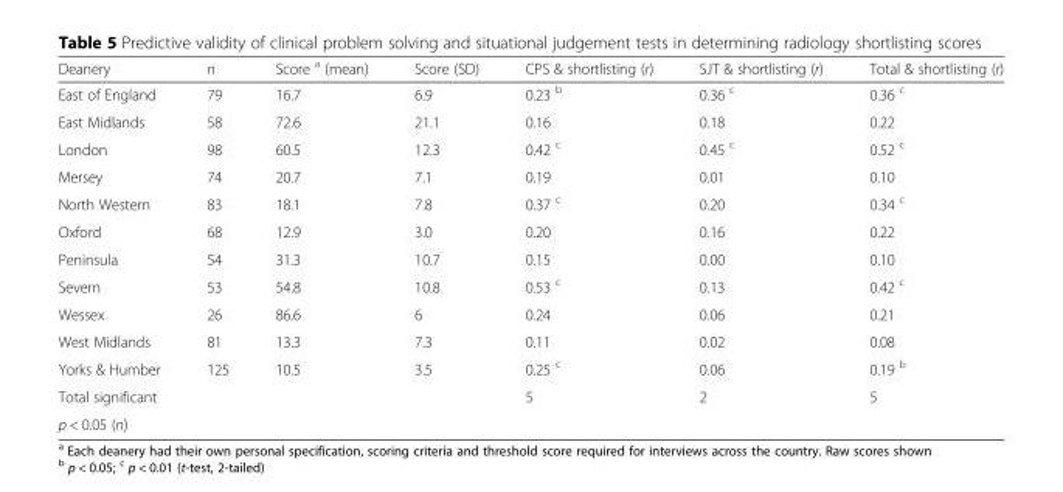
<table><thead><tr><td>Deanery</td><td>n</td><td>Score <sup>a</sup> (mean)</td><td>Score (SD)</td><td>CPS &amp; shortlisting (r)</td><td>SJT &amp; shortlisting (r)</td><td>Total &amp; shortlisting (r)</td></tr></thead><tbody><tr><td>East of England</td><td>79</td><td>16.7</td><td>6.9</td><td>0.23 <sup>b</sup></td><td>0.36 <sup>c</sup></td><td>0.36 <sup>c</sup></td></tr><tr><td>East Midlands</td><td>58</td><td>72.6</td><td>21.1</td><td>0.16</td><td>0.18</td><td>0.22</td></tr><tr><td>London</td><td>98</td><td>60.5</td><td>12.3</td><td>0.42 <sup>c</sup></td><td>0.45 <sup>c</sup></td><td>0.52 <sup>c</sup></td></tr><tr><td>Mersey</td><td>74</td><td>20.7</td><td>7.1</td><td>0.19</td><td>0.01</td><td>0.10</td></tr><tr><td>North Western</td><td>83</td><td>18.1</td><td>7.8</td><td>0.37 <sup>c</sup></td><td>0.20</td><td>0.34 <sup>c</sup></td></tr><tr><td>Oxford</td><td>68</td><td>12.9</td><td>3.0</td><td>0.20</td><td>0.16</td><td>0.22</td></tr><tr><td>Peninsula</td><td>54</td><td>31.3</td><td>10.7</td><td>0.15</td><td>0.00</td><td>0.10</td></tr><tr><td>Severn</td><td>53</td><td>54.8</td><td>10.8</td><td>0.53 <sup>c</sup></td><td>0.13</td><td>0.42 <sup>c</sup></td></tr><tr><td>Wessex</td><td>26</td><td>86.6</td><td>6</td><td>0.24</td><td>0.06</td><td>0.21</td></tr><tr><td>West Midlands</td><td>81</td><td>13.3</td><td>7.3</td><td>0.11</td><td>0.02</td><td>0.08</td></tr><tr><td>Yorks &amp; Humber</td><td>125</td><td>10.5</td><td>3.5</td><td>0.25 <sup>c</sup></td><td>0.06</td><td>0.19 <sup>b</sup></td></tr><tr><td>Total significant</td><td rowspan="2"></td><td rowspan="2"></td><td rowspan="2"></td><td rowspan="2">5</td><td rowspan="2">2</td><td rowspan="2">5</td></tr><tr><td>p &lt; 0.05 (n)</td></tr></tbody></table>